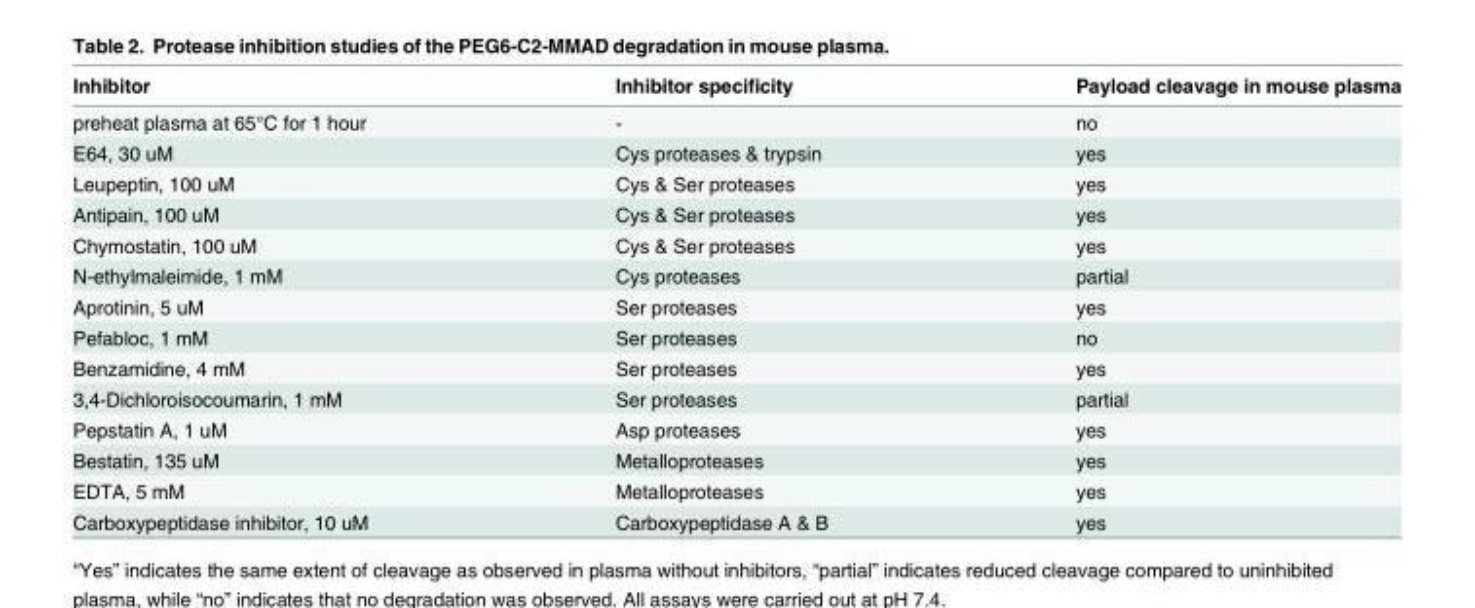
<table><thead><tr><td>Inhibitor</td><td>Inhibitor specificity</td><td>Payload cleavage in mouse plasma</td></tr></thead><tbody><tr><td>preheat plasma at 65°C for 1 hour</td><td>-</td><td>no</td></tr><tr><td>E64, 30 uM</td><td>Cys proteases &amp; trypsin</td><td>yes</td></tr><tr><td>Leupeptin, 100 uM</td><td>Cys &amp; Ser proteases</td><td>yes</td></tr><tr><td>Antipain, 100 uM</td><td>Cys &amp; Ser proteases</td><td>yes</td></tr><tr><td>Chymostatin, 100 uM</td><td>Cys &amp; Ser proteases</td><td>yes</td></tr><tr><td>N-ethylmaleimide, 1 mM</td><td>Cys proteases</td><td>partial</td></tr><tr><td>Aprotinin, 5 uM</td><td>Ser proteases</td><td>yes</td></tr><tr><td>Pefabloc, 1 mM</td><td>Ser proteases</td><td>no</td></tr><tr><td>Benzamidine, 4 mM</td><td>Ser proteases</td><td>yes</td></tr><tr><td>3,4-Dichloroisocoumarin, 1 mM</td><td>Ser proteases</td><td>partial</td></tr><tr><td>Pepstatin A, 1 uM</td><td>Asp proteases</td><td>yes</td></tr><tr><td>Bestatin, 135 uM</td><td>Metalloproteases</td><td>yes</td></tr><tr><td>EDTA, 5 mM</td><td>Metalloproteases</td><td>yes</td></tr><tr><td>Carboxypeptidase inhibitor, 10 uM</td><td>Carboxypeptidase A &amp; B</td><td>yes</td></tr></tbody></table>